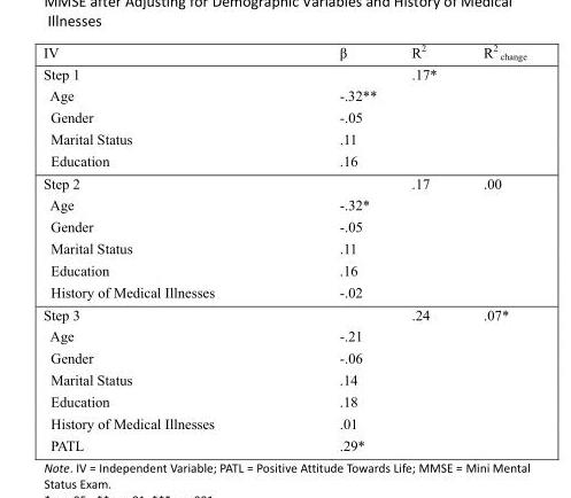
<table><thead><tr><td>IV</td><td>β</td><td>R<sup>2</sup></td><td>R<sup>2</sup> <sub>change</sub></td></tr></thead><tbody><tr><td>Step 1</td><td></td><td>.17*</td><td></td></tr><tr><td>Age</td><td>-.32**</td><td></td><td></td></tr><tr><td>Gender</td><td>-.05</td><td></td><td></td></tr><tr><td>Marital Status</td><td>.11</td><td></td><td></td></tr><tr><td>Education</td><td>.16</td><td></td><td></td></tr><tr><td>Step 2</td><td></td><td>.17</td><td>.00</td></tr><tr><td>Age</td><td>-.32*</td><td></td><td></td></tr><tr><td>Gender</td><td>-.05</td><td></td><td></td></tr><tr><td>Marital Status</td><td>.11</td><td></td><td></td></tr><tr><td>Education</td><td>.16</td><td></td><td></td></tr><tr><td>History of Medical Illnesses</td><td>-.02</td><td></td><td></td></tr><tr><td>Step 3</td><td></td><td>.24</td><td>.07*</td></tr><tr><td>Age</td><td>-.21</td><td></td><td></td></tr><tr><td>Gender</td><td>-.06</td><td></td><td></td></tr><tr><td>Marital Status</td><td>.14</td><td></td><td></td></tr><tr><td>Education</td><td>.18</td><td></td><td></td></tr><tr><td>History of Medical Illnesses</td><td>.01</td><td></td><td></td></tr><tr><td>PATL</td><td>.29*</td><td></td><td></td></tr></tbody></table>